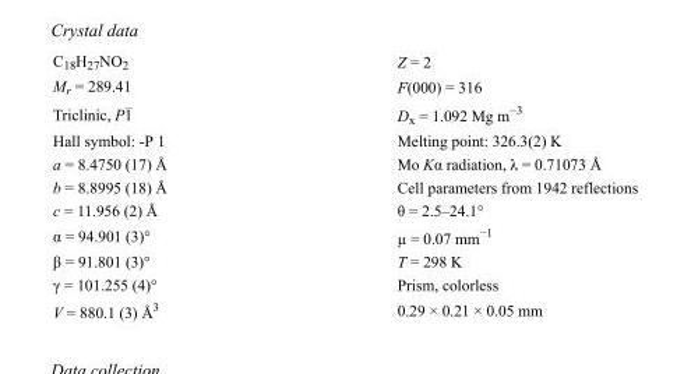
<table><tbody><tr><td>C<sub>18</sub>H<sub>27</sub>NO<sub>2</sub></td><td>Z = 2</td></tr><tr><td>M<sub>r</sub> = 289.41</td><td>F(000) = 316</td></tr><tr><td>Triclinic, P1</td><td>D<sub>x</sub> = 1.092 Mg m<sup>−3</sup></td></tr><tr><td>Hall symbol: -P 1</td><td>Melting point: 326.3(2) K</td></tr><tr><td>a = 8.4750 (17) Å</td><td>Mo Kα radiation, λ = 0.71073 Å</td></tr><tr><td>b = 8.8995 (18) Å</td><td>Cell parameters from 1942 reflections</td></tr><tr><td>c = 11.956 (2) Å</td><td>θ = 2.5–24.1°</td></tr><tr><td>α = 94.901 (3)°</td><td>µ = 0.07 mm<sup>−1</sup></td></tr><tr><td>β = 91.801 (3)°</td><td>T = 298 K</td></tr><tr><td>γ = 101.255 (4)°</td><td>Prism, colorless</td></tr><tr><td>V = 880.1 (3) Å<sup>3</sup></td><td>0.29 × 0.21 × 0.05 mm</td></tr></tbody></table>